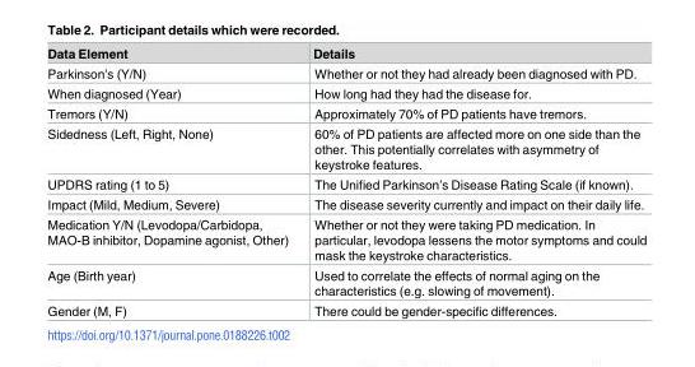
<table><thead><tr><td>Data Element</td><td>Details</td></tr></thead><tbody><tr><td>Parkinson’s (Y/N)</td><td>Whether or not they had already been diagnosed with PD.</td></tr><tr><td>When diagnosed (Year)</td><td>How long had they had the disease for.</td></tr><tr><td>Tremors (Y/N)</td><td>Approximately 70% of PD patients have tremors.</td></tr><tr><td>Sidedness (Left, Right, None)</td><td>60% of PD patients are affected more on one side than the other. This potentially correlates with asymmetry of keystroke features.</td></tr><tr><td>UPDRS rating (1 to 5)</td><td>The Unified Parkinson’s Disease Rating Scale (if known).</td></tr><tr><td>Impact (Mild, Medium, Severe)</td><td>The disease severity currently and impact on their daily life.</td></tr><tr><td>Medication Y/N (Levodopa/Carbidopa, MAO-B inhibitor, Dopamine agonist, Other)</td><td>Whether or not they were taking PD medication. In particular, levodopa lessens the motor symptoms and could mask the keystroke characteristics.</td></tr><tr><td>Age (Birth year)</td><td>Used to correlate the effects of normal aging on the characteristics (e.g. slowing of movement).</td></tr><tr><td>Gender (M, F)</td><td>There could be gender-specific differences.</td></tr></tbody></table>